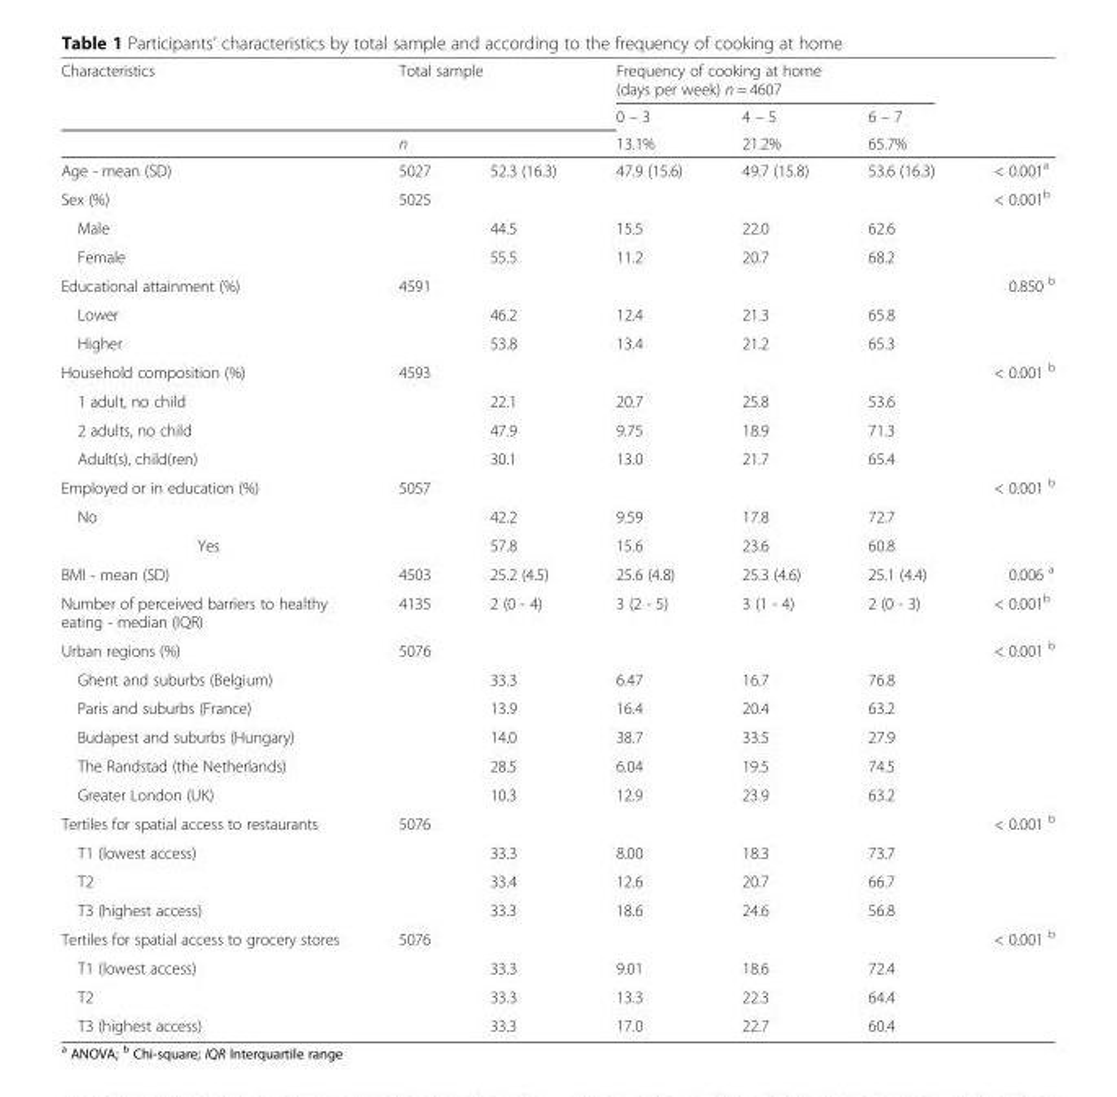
<table><thead><tr><td rowspan="3">Characteristics</td><td rowspan="2" colspan="2">Total sample</td><td colspan="3">Frequency of cooking at home (days per week) n = 4607</td><td rowspan="3"></td></tr><tr><td rowspan="2">0 – 3 13.1%</td><td rowspan="2">4 – 5 21.2%</td><td rowspan="2">6 – 7 65.7%</td></tr><tr><td>n</td><td></td></tr></thead><tbody><tr><td>Age - mean (SD)</td><td>5027</td><td>52.3 (16.3)</td><td>47.9 (15.6)</td><td>49.7 (15.8)</td><td>53.6 (16.3)</td><td>&lt; 0.001<sup>a</sup></td></tr><tr><td>Sex (%)</td><td>5025</td><td></td><td></td><td></td><td></td><td>&lt; 0.001<sup>b</sup></td></tr><tr><td>Male</td><td></td><td>44.5</td><td>15.5</td><td>22.0</td><td>62.6</td><td></td></tr><tr><td>Female</td><td></td><td>55.5</td><td>11.2</td><td>20.7</td><td>68.2</td><td></td></tr><tr><td>Educational attainment (%)</td><td>4591</td><td></td><td></td><td></td><td></td><td>0.850 <sup>b</sup></td></tr><tr><td>Lower</td><td></td><td>46.2</td><td>12.4</td><td>21.3</td><td>65.8</td><td></td></tr><tr><td>Higher</td><td></td><td>53.8</td><td>13.4</td><td>21.2</td><td>65.3</td><td></td></tr><tr><td>Household composition (%)</td><td>4593</td><td></td><td></td><td></td><td></td><td>&lt; 0.001 <sup>b</sup></td></tr><tr><td>1 adult, no child</td><td></td><td>22.1</td><td>20.7</td><td>25.8</td><td>53.6</td><td></td></tr><tr><td>2 adults, no child</td><td></td><td>47.9</td><td>9.75</td><td>18.9</td><td>71.3</td><td></td></tr><tr><td>Adult(s), child(ren)</td><td></td><td>30.1</td><td>13.0</td><td>21.7</td><td>65.4</td><td></td></tr><tr><td>Employed or in education (%)</td><td>5057</td><td></td><td></td><td></td><td></td><td>&lt; 0.001 <sup>b</sup></td></tr><tr><td>No</td><td></td><td>42.2</td><td>9.59</td><td>17.8</td><td>72.7</td><td></td></tr><tr><td>Yes</td><td></td><td>57.8</td><td>15.6</td><td>23.6</td><td>60.8</td><td></td></tr><tr><td>BMI - mean (SD)</td><td>4503</td><td>25.2 (4.5)</td><td>25.6 (4.8)</td><td>25.3 (4.6)</td><td>25.1 (4.4)</td><td>0.006 <sup>a</sup></td></tr><tr><td>Number of perceived barriers to healthy eating - median (IQR)</td><td>4135</td><td>2 (0 - 4)</td><td>3 (2 - 5)</td><td>3 (1 - 4)</td><td>2 (0 - 3)</td><td>&lt; 0.001<sup>b</sup></td></tr><tr><td>Urban regions (%)</td><td>5076</td><td></td><td></td><td></td><td></td><td>&lt; 0.001 <sup>b</sup></td></tr><tr><td>Ghent and suburbs (Belgium)</td><td></td><td>33.3</td><td>6.47</td><td>16.7</td><td>76.8</td><td></td></tr><tr><td>Paris and suburbs (France)</td><td></td><td>13.9</td><td>16.4</td><td>20.4</td><td>63.2</td><td></td></tr><tr><td>Budapest and suburbs (Hungary)</td><td></td><td>14.0</td><td>38.7</td><td>33.5</td><td>27.9</td><td></td></tr><tr><td>The Randstad (the Netherlands)</td><td></td><td>28.5</td><td>6.04</td><td>19.5</td><td>74.5</td><td></td></tr><tr><td>Greater London (UK)</td><td></td><td>10.3</td><td>12.9</td><td>23.9</td><td>63.2</td><td></td></tr><tr><td>Tertiles for spatial access to restaurants</td><td>5076</td><td></td><td></td><td></td><td></td><td>&lt; 0.001 <sup>b</sup></td></tr><tr><td>T1 (lowest access)</td><td></td><td>33.3</td><td>8.00</td><td>18.3</td><td>73.7</td><td></td></tr><tr><td>T2</td><td></td><td>33.4</td><td>12.6</td><td>20.7</td><td>66.7</td><td></td></tr><tr><td>T3 (highest access)</td><td></td><td>33.3</td><td>18.6</td><td>24.6</td><td>56.8</td><td></td></tr><tr><td>Tertiles for spatial access to grocery stores</td><td>5076</td><td></td><td></td><td></td><td></td><td>&lt; 0.001 <sup>b</sup></td></tr><tr><td>T1 (lowest access)</td><td></td><td>33.3</td><td>9.01</td><td>18.6</td><td>72.4</td><td></td></tr><tr><td>T2</td><td></td><td>33.3</td><td>13.3</td><td>22.3</td><td>64.4</td><td></td></tr><tr><td>T3 (highest access)</td><td></td><td>33.3</td><td>17.0</td><td>22.7</td><td>60.4</td><td></td></tr></tbody></table>